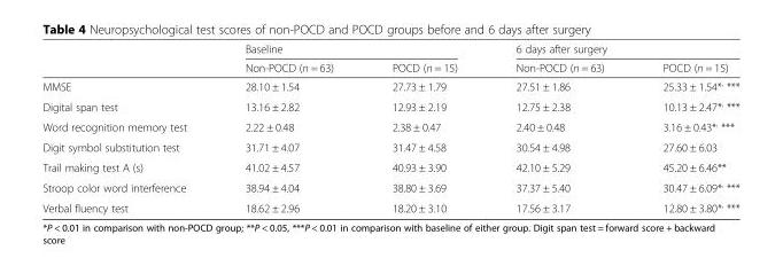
<table><thead><tr><td rowspan="2"></td><td colspan="2">Baseline</td><td colspan="2">6 days after surgery</td></tr><tr><td>Non-POCD (n = 63)</td><td>POCD (n = 15)</td><td>Non-POCD (n = 63)</td><td>POCD (n = 15)</td></tr></thead><tbody><tr><td>MMSE</td><td>28.10 ± 1.54</td><td>27.73 ± 1.79</td><td>27.51 ± 1.86</td><td>25.33 ± 1.54*<sup>,</sup> ***</td></tr><tr><td>Digital span test</td><td>13.16 ± 2.82</td><td>12.93 ± 2.19</td><td>12.75 ± 2.38</td><td>10.13 ± 2.47*<sup>,</sup> ***</td></tr><tr><td>Word recognition memory test</td><td>2.22 ± 0.48</td><td>2.38 ± 0.47</td><td>2.40 ± 0.48</td><td>3.16 ± 0.43*<sup>,</sup> ***</td></tr><tr><td>Digit symbol substitution test</td><td>31.71 ± 4.07</td><td>31.47 ± 4.58</td><td>30.54 ± 4.98</td><td>27.60 ± 6.03</td></tr><tr><td>Trail making test A (s)</td><td>41.02 ± 4.57</td><td>40.93 ± 3.90</td><td>42.10 ± 5.29</td><td>45.20 ± 6.46**</td></tr><tr><td>Stroop color word interference</td><td>38.94 ± 4.04</td><td>38.80 ± 3.69</td><td>37.37 ± 5.40</td><td>30.47 ± 6.09*<sup>,</sup> ***</td></tr><tr><td>Verbal fluency test</td><td>18.62 ± 2.96</td><td>18.20 ± 3.10</td><td>17.56 ± 3.17</td><td>12.80 ± 3.80*<sup>,</sup> ***</td></tr></tbody></table>